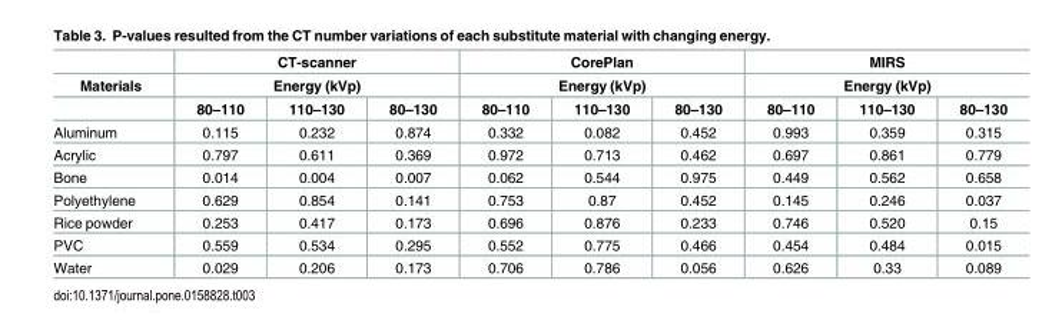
<table><thead><tr><td rowspan="3">Materials</td><td rowspan="2" colspan="3">CT-scanner Energy (kVp)</td><td rowspan="2" colspan="3">CorePlan Energy (kVp)</td><td rowspan="2" colspan="3">MIRS Energy (kVp)</td></tr><tr></tr><tr><td>80–110</td><td>110–130</td><td>80–130</td><td>80–110</td><td>110–130</td><td>80–130</td><td>80–110</td><td>110–130</td><td>80–130</td></tr></thead><tbody><tr><td>Aluminum</td><td>0.115</td><td>0.232</td><td>0.874</td><td>0.332</td><td>0.082</td><td>0.452</td><td>0.993</td><td>0.359</td><td>0.315</td></tr><tr><td>Acrylic</td><td>0.797</td><td>0.611</td><td>0.369</td><td>0.972</td><td>0.713</td><td>0.462</td><td>0.697</td><td>0.861</td><td>0.779</td></tr><tr><td>Bone</td><td>0.014</td><td>0.004</td><td>0.007</td><td>0.062</td><td>0.544</td><td>0.975</td><td>0.449</td><td>0.562</td><td>0.658</td></tr><tr><td>Polyethylene</td><td>0.629</td><td>0.854</td><td>0.141</td><td>0.753</td><td>0.87</td><td>0.452</td><td>0.145</td><td>0.246</td><td>0.037</td></tr><tr><td>Rice powder</td><td>0.253</td><td>0.417</td><td>0.173</td><td>0.696</td><td>0.876</td><td>0.233</td><td>0.746</td><td>0.520</td><td>0.15</td></tr><tr><td>PVC</td><td>0.559</td><td>0.534</td><td>0.295</td><td>0.552</td><td>0.775</td><td>0.466</td><td>0.454</td><td>0.484</td><td>0.015</td></tr><tr><td>Water</td><td>0.029</td><td>0.206</td><td>0.173</td><td>0.706</td><td>0.786</td><td>0.056</td><td>0.626</td><td>0.33</td><td>0.089</td></tr></tbody></table>